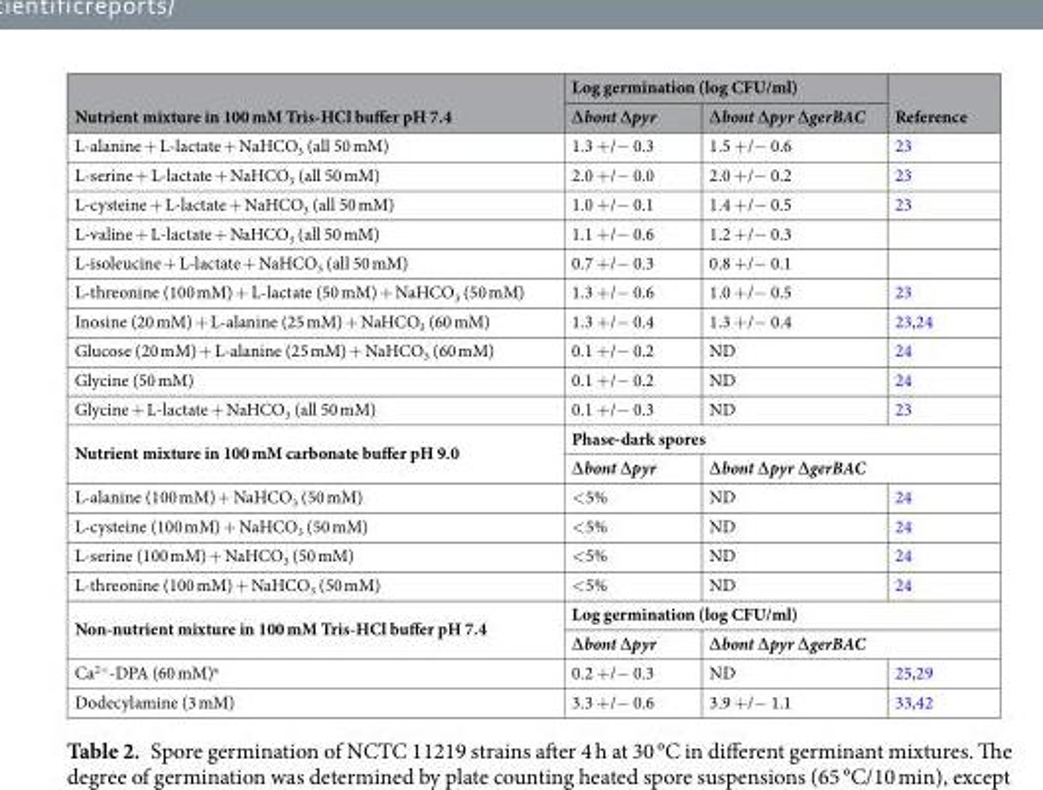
<table><thead><tr><td rowspan="2">Nutrient mixture in 100 mM Tris-HCl buffer pH 7.4</td><td colspan="2">Log germination (log CFU/ml)</td><td rowspan="2">Reference</td></tr><tr><td>∆bont ∆pyr</td><td>∆bont ∆pyr ∆gerBAC</td></tr></thead><tbody><tr><td>L-alanine + L-lactate + NaHCO<sub>3</sub> (all 50 mM)</td><td>1.3 +/− 0.3</td><td>1.5 +/− 0.6</td><td>23</td></tr><tr><td>L-serine + L-lactate + NaHCO<sub>3</sub> (all 50 mM)</td><td>2.0 +/− 0.0</td><td>2.0 +/− 0.2</td><td>23</td></tr><tr><td>L-cysteine + L-lactate + NaHCO<sub>3</sub> (all 50 mM)</td><td>1.0 +/− 0.1</td><td>1.4 +/− 0.5</td><td>23</td></tr><tr><td>L-valine + L-lactate + NaHCO<sub>3</sub> (all 50 mM)</td><td>1.1 +/− 0.6</td><td>1.2 +/− 0.3</td><td></td></tr><tr><td>L-isoleucine + L-lactate + NaHCO<sub>3</sub> (all 50 mM)</td><td>0.7 +/− 0.3</td><td>0.8 +/− 0.1</td><td></td></tr><tr><td>L-threonine (100 mM) + L-lactate (50 mM) + NaHCO<sub>3</sub> (50 mM)</td><td>1.3 +/− 0.6</td><td>1.0 +/− 0.5</td><td>23</td></tr><tr><td>Inosine (20 mM) + L-alanine (25 mM) + NaHCO<sub>3</sub> (60 mM)</td><td>1.3 +/− 0.4</td><td>1.3 +/− 0.4</td><td>23,24</td></tr><tr><td>Glucose (20 mM) + L-alanine (25 mM) + NaHCO<sub>3</sub> (60 mM)</td><td>0.1 +/− 0.2</td><td>ND</td><td>24</td></tr><tr><td>Glycine (50 mM)</td><td>0.1 +/− 0.2</td><td>ND</td><td>24</td></tr><tr><td>Glycine + L-lactate + NaHCO<sub>3</sub> (all 50 mM)</td><td>0.1 +/− 0.3</td><td>ND</td><td>23</td></tr><tr><td rowspan="2">Nutrient mixture in 100 mM carbonate buffer pH 9.0</td><td colspan="3">Phase-dark spores</td></tr><tr><td>∆bont ∆pyr</td><td colspan="2">∆bont ∆pyr ∆gerBAC</td></tr><tr><td>L-alanine (100 mM) + NaHCO<sub>3</sub> (50 mM)</td><td>&lt;5%</td><td>ND</td><td>24</td></tr><tr><td>L-cysteine (100 mM) + NaHCO<sub>3</sub> (50 mM)</td><td>&lt;5%</td><td>ND</td><td>24</td></tr><tr><td>L-serine (100 mM) + NaHCO<sub>3</sub> (50 mM)</td><td>&lt;5%</td><td>ND</td><td>24</td></tr><tr><td>L-threonine (100 mM) + NaHCO<sub>3</sub> (50 mM)</td><td>&lt;5%</td><td>ND</td><td>24</td></tr><tr><td rowspan="2">Non-nutrient mixture in 100 mM Tris-HCl buffer pH 7.4</td><td colspan="3">Log germination (log CFU/ml)</td></tr><tr><td>∆bont ∆pyr</td><td colspan="2">∆bont ∆pyr ∆gerBAC</td></tr><tr><td>Ca<sup>2+</sup>-DPA (60 mM)<sup>a</sup></td><td>0.2 +/− 0.3</td><td>ND</td><td>25,29</td></tr><tr><td>Dodecylamine (3 mM)</td><td>3.3 +/− 0.6</td><td>3.9 +/− 1.1</td><td>33,42</td></tr></tbody></table>